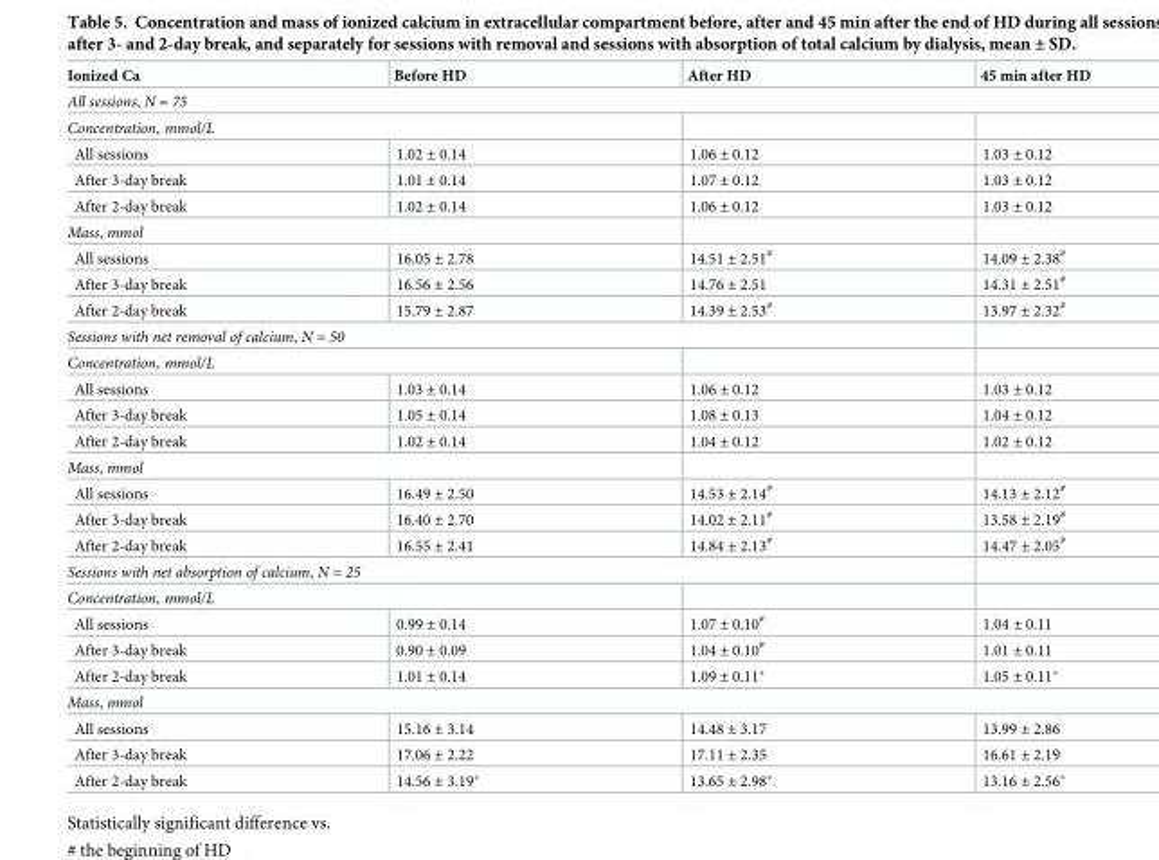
<table><thead><tr><td>Ionized Ca</td><td>Before HD</td><td>After HD</td><td>45 min after HD</td></tr></thead><tbody><tr><td colspan="4">All sessions, N = 75</td></tr><tr><td colspan="4">Concentration, mmol/L</td></tr><tr><td>All sessions</td><td>1.02 ± 0.14</td><td>1.06 ± 0.12</td><td>1.03 ± 0.12</td></tr><tr><td>After 3-day break</td><td>1.01 ± 0.14</td><td>1.07 ± 0.12</td><td>1.03 ± 0.12</td></tr><tr><td>After 2-day break</td><td>1.02 ± 0.14</td><td>1.06 ± 0.12</td><td>1.03 ± 0.12</td></tr><tr><td colspan="4">Mass, mmol</td></tr><tr><td>All sessions</td><td>16.05 ± 2.78</td><td>14.51 ± 2.51<sup>#</sup></td><td>14.09 ± 2.38<sup>#</sup></td></tr><tr><td>After 3-day break</td><td>16.56 ± 2.56</td><td>14.76 ± 2.51</td><td>14.31 ± 2.51<sup>#</sup></td></tr><tr><td>After 2-day break</td><td>15.79 ± 2.87</td><td>14.39 ± 2.53<sup>#</sup></td><td>13.97 ± 2.32<sup>#</sup></td></tr><tr><td colspan="4">Sessions with net removal of calcium, N = 50</td></tr><tr><td colspan="4">Concentration, mmol/L</td></tr><tr><td>All sessions</td><td>1.03 ± 0.14</td><td>1.06 ± 0.12</td><td>1.03 ± 0.12</td></tr><tr><td>After 3-day break</td><td>1.05 ± 0.14</td><td>1.08 ± 0.13</td><td>1.04 ± 0.12</td></tr><tr><td>After 2-day break</td><td>1.02 ± 0.14</td><td>1.04 ± 0.12</td><td>1.02 ± 0.12</td></tr><tr><td colspan="4">Mass, mmol</td></tr><tr><td>All sessions</td><td>16.49 ± 2.50</td><td>14.53 ± 2.14<sup>#</sup></td><td>14.13 ± 2.12<sup>#</sup></td></tr><tr><td>After 3-day break</td><td>16.40 ± 2.70</td><td>14.02 ± 2.11<sup>#</sup></td><td>13.58 ± 2.19<sup>#</sup></td></tr><tr><td>After 2-day break</td><td>16.55 ± 2.41</td><td>14.84 ± 2.13<sup>#</sup></td><td>14.47 ± 2.05<sup>#</sup></td></tr><tr><td colspan="4">Sessions with net absorption of calcium, N = 25</td></tr><tr><td colspan="4">Concentration, mmol/L</td></tr><tr><td>All sessions</td><td>0.99 ± 0.14</td><td>1.07 ± 0.10<sup>#</sup></td><td>1.04 ± 0.11</td></tr><tr><td>After 3-day break</td><td>0.90 ± 0.09</td><td>1.04 ± 0.10<sup>#</sup></td><td>1.01 ± 0.11</td></tr><tr><td>After 2-day break</td><td>1.01 ± 0.14</td><td>1.09 ± 0.11*</td><td>1.05 ± 0.11*</td></tr><tr><td colspan="4">Mass, mmol</td></tr><tr><td>All sessions</td><td>15.16 ± 3.14</td><td>14.48 ± 3.17</td><td>13.99 ± 2.86</td></tr><tr><td>After 3-day break</td><td>17.06 ± 2.22</td><td>17.11 ± 2.35</td><td>16.61 ± 2.19</td></tr><tr><td>After 2-day break</td><td>14.56 ± 3.19*</td><td>13.65 ± 2.98*</td><td>13.16 ± 2.56*</td></tr></tbody></table>